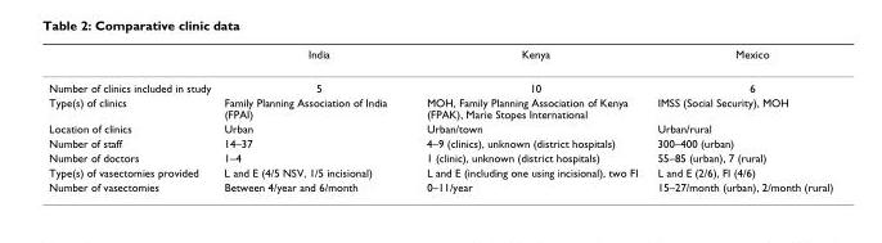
<table><thead><tr><td></td><td>India</td><td>Kenya</td><td>Mexico</td></tr></thead><tbody><tr><td>Number of clinics included in study</td><td>5</td><td>10</td><td>6</td></tr><tr><td>Type(s) of clinics</td><td>Family Planning Association of India (FPAI)</td><td>MOH, Family Planning Association of Kenya (FPAK), Marie Stopes International</td><td>IMSS (Social Security), MOH</td></tr><tr><td>Location of clinics</td><td>Urban</td><td>Urban/town</td><td>Urban/rural</td></tr><tr><td>Number of staff</td><td>14–37</td><td>4–9 (clinics), unknown (district hospitals)</td><td>300–400 (urban)</td></tr><tr><td>Number of doctors</td><td>1–4</td><td>1 (clinic), unknown (district hospitals)</td><td>55–85 (urban), 7 (rural)</td></tr><tr><td>Type(s) of vasectomies provided</td><td>L and E (4/5 NSV, 1/5 incisional)</td><td>L and E (including one using incisional), two FI</td><td>L and E (2/6), FI (4/6)</td></tr><tr><td>Number of vasectomies</td><td>Between 4/year and 6/month</td><td>0–11/year</td><td>15–27/month (urban), 2/month (rural)</td></tr></tbody></table>